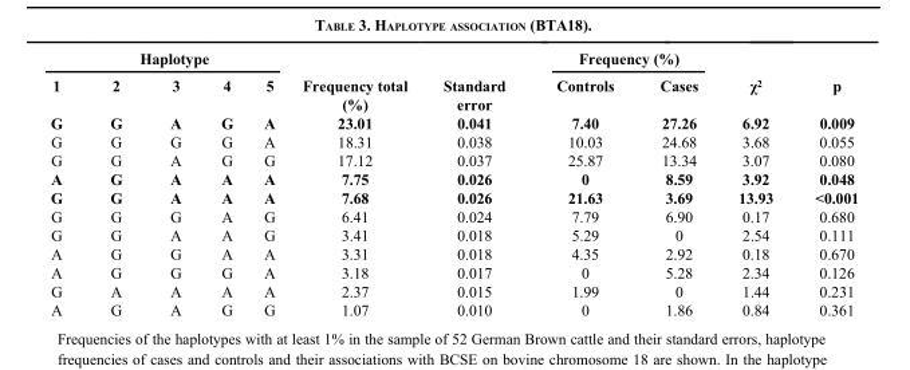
<table><thead><tr><td colspan="5">Haplotype</td><td rowspan="2">Frequency total (%)</td><td rowspan="2">Standard error</td><td colspan="2">Frequency (%)</td><td rowspan="2">χ<sup>2</sup></td><td rowspan="2">p</td></tr><tr><td>1</td><td>2</td><td>3</td><td>4</td><td>5</td><td>Controls</td><td>Cases</td></tr></thead><tbody><tr><td>G</td><td>G</td><td>A</td><td>G</td><td>A</td><td>23.01</td><td>0.041</td><td>7.40</td><td>27.26</td><td>6.92</td><td>0.009</td></tr><tr><td>G</td><td>G</td><td>G</td><td>G</td><td>A</td><td>18.31</td><td>0.038</td><td>10.03</td><td>24.68</td><td>3.68</td><td>0.055</td></tr><tr><td>G</td><td>G</td><td>A</td><td>G</td><td>G</td><td>17.12</td><td>0.037</td><td>25.87</td><td>13.34</td><td>3.07</td><td>0.080</td></tr><tr><td>A</td><td>G</td><td>A</td><td>A</td><td>A</td><td>7.75</td><td>0.026</td><td>0</td><td>8.59</td><td>3.92</td><td>0.048</td></tr><tr><td>G</td><td>G</td><td>A</td><td>A</td><td>A</td><td>7.68</td><td>0.026</td><td>21.63</td><td>3.69</td><td>13.93</td><td>&lt;0.001</td></tr><tr><td>G</td><td>G</td><td>G</td><td>A</td><td>G</td><td>6.41</td><td>0.024</td><td>7.79</td><td>6.90</td><td>0.17</td><td>0.680</td></tr><tr><td>G</td><td>G</td><td>A</td><td>A</td><td>G</td><td>3.41</td><td>0.018</td><td>5.29</td><td>0</td><td>2.54</td><td>0.111</td></tr><tr><td>A</td><td>G</td><td>G</td><td>A</td><td>A</td><td>3.31</td><td>0.018</td><td>4.35</td><td>2.92</td><td>0.18</td><td>0.670</td></tr><tr><td>A</td><td>G</td><td>G</td><td>G</td><td>A</td><td>3.18</td><td>0.017</td><td>0</td><td>5.28</td><td>2.34</td><td>0.126</td></tr><tr><td>G</td><td>A</td><td>A</td><td>A</td><td>A</td><td>2.37</td><td>0.015</td><td>1.99</td><td>0</td><td>1.44</td><td>0.231</td></tr><tr><td>A</td><td>G</td><td>A</td><td>G</td><td>G</td><td>1.07</td><td>0.010</td><td>0</td><td>1.86</td><td>0.84</td><td>0.361</td></tr></tbody></table>